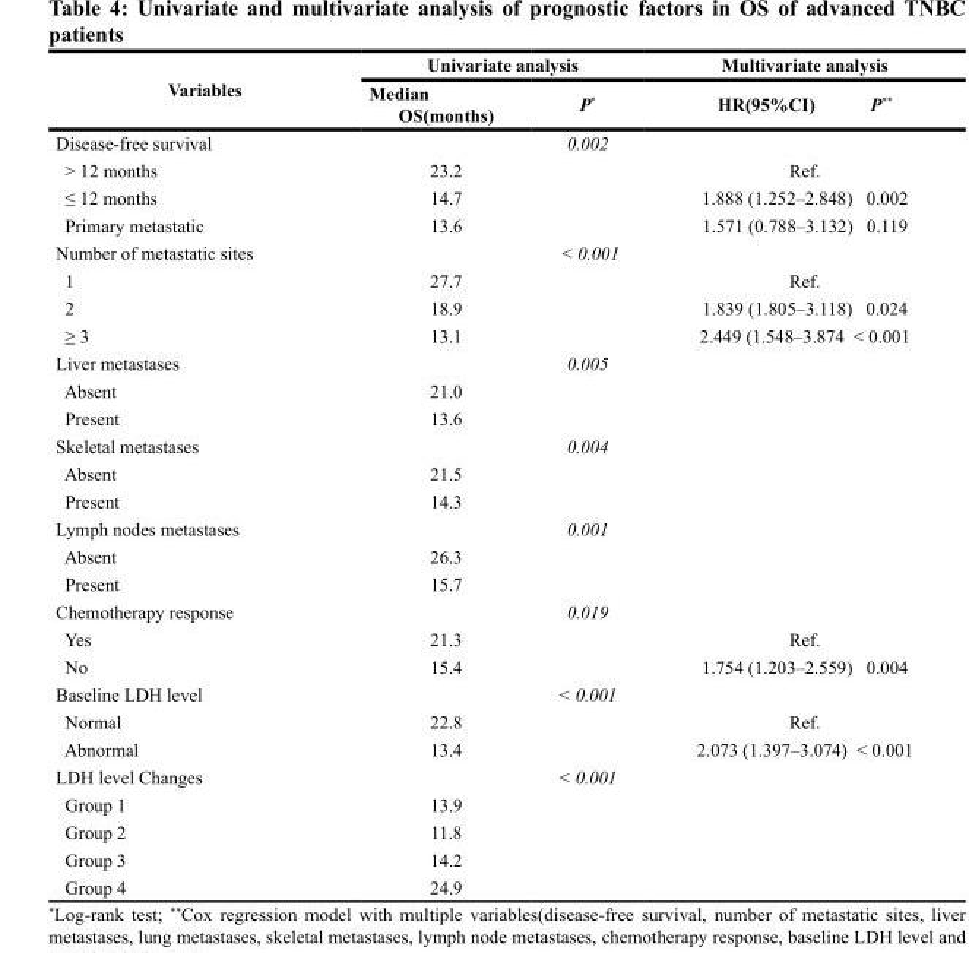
<table><thead><tr><td rowspan="2">Variables</td><td colspan="2">Univariate analysis</td><td colspan="2">Multivariate analysis</td></tr><tr><td>Median OS(months)</td><td>P*</td><td>HR(95%CI)</td><td>P**</td></tr></thead><tbody><tr><td>Disease-free survival</td><td></td><td>0.002</td><td></td><td></td></tr><tr><td>&gt; 12 months</td><td>23.2</td><td></td><td>Ref.</td><td></td></tr><tr><td>≤ 12 months</td><td>14.7</td><td></td><td>1.888 (1.252–2.848)</td><td>0.002</td></tr><tr><td>Primary metastatic</td><td>13.6</td><td></td><td>1.571 (0.788–3.132)</td><td>0.119</td></tr><tr><td>Number of metastatic sites</td><td></td><td>&lt; 0.001</td><td></td><td></td></tr><tr><td>1</td><td>27.7</td><td></td><td>Ref.</td><td></td></tr><tr><td>2</td><td>18.9</td><td></td><td>1.839 (1.805–3.118)</td><td>0.024</td></tr><tr><td>≥ 3</td><td>13.1</td><td></td><td>2.449 (1.548–3.874</td><td>&lt; 0.001</td></tr><tr><td>Liver metastases</td><td></td><td>0.005</td><td></td><td></td></tr><tr><td>Absent</td><td>21.0</td><td></td><td></td><td></td></tr><tr><td>Present</td><td>13.6</td><td></td><td></td><td></td></tr><tr><td>Skeletal metastases</td><td></td><td>0.004</td><td></td><td></td></tr><tr><td>Absent</td><td>21.5</td><td></td><td></td><td></td></tr><tr><td>Present</td><td>14.3</td><td></td><td></td><td></td></tr><tr><td>Lymph nodes metastases</td><td></td><td>0.001</td><td></td><td></td></tr><tr><td>Absent</td><td>26.3</td><td></td><td></td><td></td></tr><tr><td>Present</td><td>15.7</td><td></td><td></td><td></td></tr><tr><td>Chemotherapy response</td><td></td><td>0.019</td><td></td><td></td></tr><tr><td>Yes</td><td>21.3</td><td></td><td>Ref.</td><td></td></tr><tr><td>No</td><td>15.4</td><td></td><td>1.754 (1.203–2.559)</td><td>0.004</td></tr><tr><td>Baseline LDH level</td><td></td><td>&lt; 0.001</td><td></td><td></td></tr><tr><td>Normal</td><td>22.8</td><td></td><td>Ref.</td><td></td></tr><tr><td>Abnormal</td><td>13.4</td><td></td><td>2.073 (1.397–3.074)</td><td>&lt; 0.001</td></tr><tr><td>LDH level Changes</td><td></td><td>&lt; 0.001</td><td></td><td></td></tr><tr><td>Group 1</td><td>13.9</td><td></td><td></td><td></td></tr><tr><td>Group 2</td><td>11.8</td><td></td><td></td><td></td></tr><tr><td>Group 3</td><td>14.2</td><td></td><td></td><td></td></tr><tr><td>Group 4</td><td>24.9</td><td></td><td></td><td></td></tr></tbody></table>